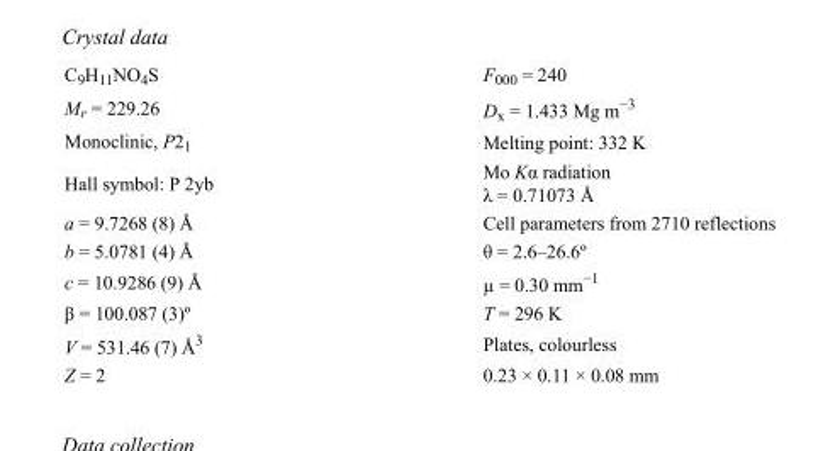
<table><tbody><tr><td>C<sub>9</sub>H<sub>11</sub>NO<sub>4</sub>S</td><td>F000 = 240</td></tr><tr><td>M<sub>r</sub> = 229.26</td><td>D<sub>x</sub> = 1.433 Mg m<sup>−3</sup></td></tr><tr><td>Monoclinic, P2<sub>1</sub></td><td>Melting point: 332 K</td></tr><tr><td>Hall symbol: P 2yb</td><td>Mo Kα radiation λ = 0.71073 Å</td></tr><tr><td>a = 9.7268 (8) Å</td><td>Cell parameters from 2710 reflections</td></tr><tr><td>b = 5.0781 (4) Å</td><td>θ = 2.6–26.6º</td></tr><tr><td>c = 10.9286 (9) Å</td><td>µ = 0.30 mm<sup>−1</sup></td></tr><tr><td>β = 100.087 (3)º</td><td>T = 296 K</td></tr><tr><td>V = 531.46 (7) Å<sup>3</sup></td><td>Plates, colourless</td></tr><tr><td>Z = 2</td><td>0.23 × 0.11 × 0.08 mm</td></tr></tbody></table>